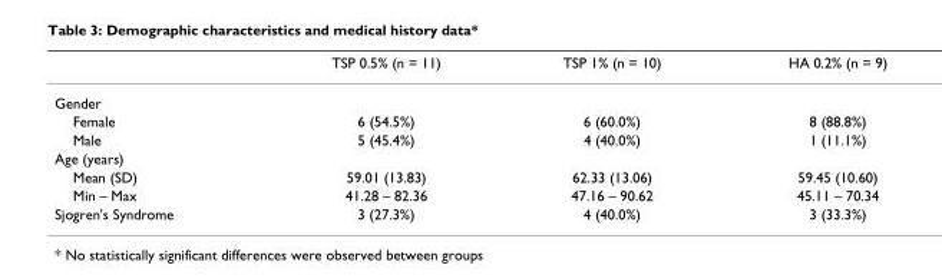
<table><thead><tr><td></td><td>TSP 0.5% (n = 11)</td><td>TSP 1% (n = 10)</td><td>HA 0.2% (n = 9)</td></tr></thead><tbody><tr><td colspan="4">Gender</td></tr><tr><td>Female</td><td>6 (54.5%)</td><td>6 (60.0%)</td><td>8 (88.8%)</td></tr><tr><td>Male</td><td>5 (45.4%)</td><td>4 (40.0%)</td><td>1 (11.1%)</td></tr><tr><td colspan="4">Age (years)</td></tr><tr><td>Mean (SD)</td><td>59.01 (13.83)</td><td>62.33 (13.06)</td><td>59.45 (10.60)</td></tr><tr><td>Min – Max</td><td>41.28 – 82.36</td><td>47.16 – 90.62</td><td>45.11 – 70.34</td></tr><tr><td>Sjogren&#x27;s Syndrome</td><td>3 (27.3%)</td><td>4 (40.0%)</td><td>3 (33.3%)</td></tr></tbody></table>